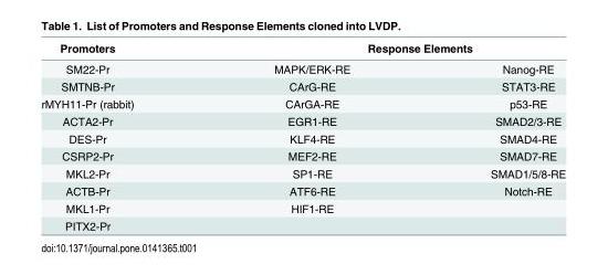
<table><thead><tr><td rowspan="2">Promoters SM22-Pr</td><td colspan="2">Response Elements</td></tr><tr><td>MAPK/ERK-RE</td><td>Nanog-RE</td></tr></thead><tbody><tr><td>SMTNB-Pr</td><td>CArG-RE</td><td>STAT3-RE</td></tr><tr><td>rMYH11-Pr (rabbit)</td><td>CArGA-RE</td><td>p53-RE</td></tr><tr><td>ACTA2-Pr</td><td>EGR1-RE</td><td>SMAD2/3-RE</td></tr><tr><td>DES-Pr</td><td>KLF4-RE</td><td>SMAD4-RE</td></tr><tr><td>CSRP2-Pr</td><td>MEF2-RE</td><td>SMAD7-RE</td></tr><tr><td>MKL2-Pr</td><td>SP1-RE</td><td>SMAD1/5/8-RE</td></tr><tr><td>ACTB-Pr</td><td>ATF6-RE</td><td>Notch-RE</td></tr><tr><td>MKL1-Pr</td><td>HIF1-RE</td><td></td></tr><tr><td>PITX2-Pr</td><td></td><td></td></tr></tbody></table>